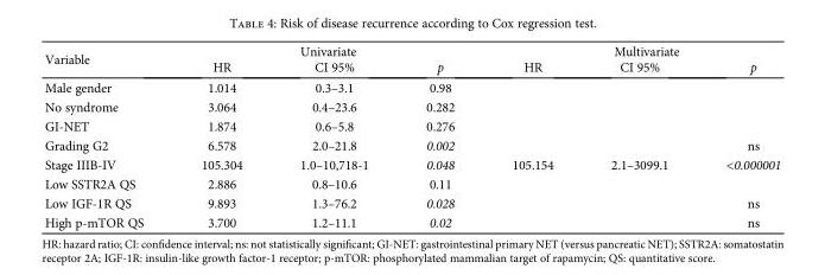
<table><thead><tr><td rowspan="2">Variable</td><td colspan="3">Univariate</td><td colspan="3">Multivariate</td></tr><tr><td>HR</td><td>CI 95%</td><td>p</td><td>HR</td><td>CI 95%</td><td>p</td></tr></thead><tbody><tr><td>Male gender</td><td>1.014</td><td>0.3–3.1</td><td>0.98</td><td></td><td></td><td></td></tr><tr><td>No syndrome</td><td>3.064</td><td>0.4–23.6</td><td>0.282</td><td></td><td></td><td></td></tr><tr><td>GI-NET</td><td>1.874</td><td>0.6–5.8</td><td>0.276</td><td></td><td></td><td></td></tr><tr><td>Grading G2</td><td>6.578</td><td>2.0–21.8</td><td>0.002</td><td></td><td></td><td>ns</td></tr><tr><td>Stage IIIB-IV</td><td>105.304</td><td>1.0–10,718-1</td><td>0.048</td><td>105.154</td><td>2.1–3099.1</td><td>&lt;0.000001</td></tr><tr><td>Low SSTR2A QS</td><td>2.886</td><td>0.8–10.6</td><td>0.11</td><td></td><td></td><td></td></tr><tr><td>Low IGF-1R QS</td><td>9.893</td><td>1.3–76.2</td><td>0.028</td><td></td><td></td><td>ns</td></tr><tr><td>High p-mTOR QS</td><td>3.700</td><td>1.2–11.1</td><td>0.02</td><td></td><td></td><td>ns</td></tr></tbody></table>